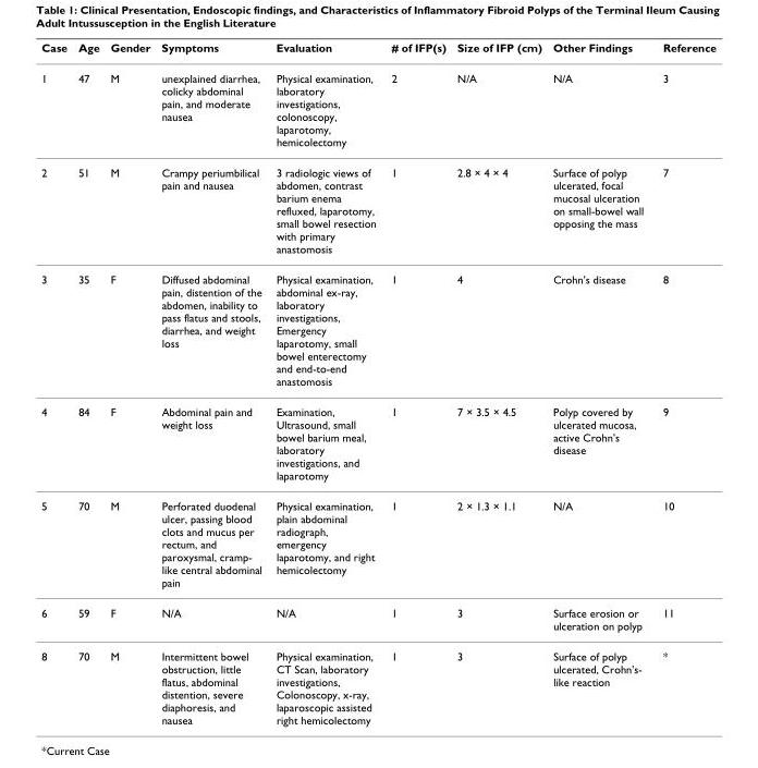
<table><thead><tr><td>Case</td><td>Age</td><td>Gender</td><td>Symptoms</td><td>Evaluation</td><td># of IFP(s)</td><td>Size of IFP (cm)</td><td>Other Findings</td><td>Reference</td></tr></thead><tbody><tr><td>1</td><td>47</td><td>M</td><td>unexplained diarrhea, colicky abdominal pain, and moderate nausea</td><td>Physical examination, laboratory investigations, colonoscopy, laparotomy, hemicolectomy</td><td>2</td><td>N/A</td><td>N/A</td><td>3</td></tr><tr><td>2</td><td>51</td><td>M</td><td>Crampy periumbilical pain and nausea</td><td>3 radiologic views of abdomen, contrast barium enema refluxed, laparotomy, small bowel resection with primary anastomosis</td><td>1</td><td>2.8 × 4 × 4</td><td>Surface of polyp ulcerated, focal mucosal ulceration on small-bowel wall opposing the mass</td><td>7</td></tr><tr><td>3</td><td>35</td><td>F</td><td>Diffused abdominal pain, distention of the abdomen, inability to pass flatus and stools, diarrhea, and weight loss</td><td>Physical examination, abdominal ex-ray, laboratory investigations, Emergency laparotomy, small bowel enterectomy and end-to-end anastomosis</td><td>1</td><td>4</td><td>Crohn&#x27;s disease</td><td>8</td></tr><tr><td>4</td><td>84</td><td>F</td><td>Abdominal pain and weight loss</td><td>Examination, Ultrasound, small bowel barium meal, laboratory investigations, and laparotomy</td><td>1</td><td>7 × 3.5 × 4.5</td><td>Polyp covered by ulcerated mucosa, active Crohn&#x27;s disease</td><td>9</td></tr><tr><td>5</td><td>70</td><td>M</td><td>Perforated duodenal ulcer, passing blood clots and mucus per rectum, and paroxysmal, cramp- like central abdominal pain</td><td>Physical examination, plain abdominal radiograph, emergency laparotomy, and right hemicolectomy</td><td>1</td><td>2 × 1.3 × 1.1</td><td>N/A</td><td>10</td></tr><tr><td>6</td><td>59</td><td>F</td><td>N/A</td><td>N/A</td><td>1</td><td>3</td><td>Surface erosion or ulceration on polyp</td><td>11</td></tr><tr><td>8</td><td>70</td><td>M</td><td>Intermittent bowel obstruction, little flatus, abdominal distention, severe diaphoresis, and nausea</td><td>Physical examination, CT Scan, laboratory investigations, Colonoscopy, x-ray, laparoscopic assisted right hemicolectomy</td><td>1</td><td>3</td><td>Surface of polyp ulcerated, Crohn&#x27;s- like reaction</td><td>*</td></tr></tbody></table>